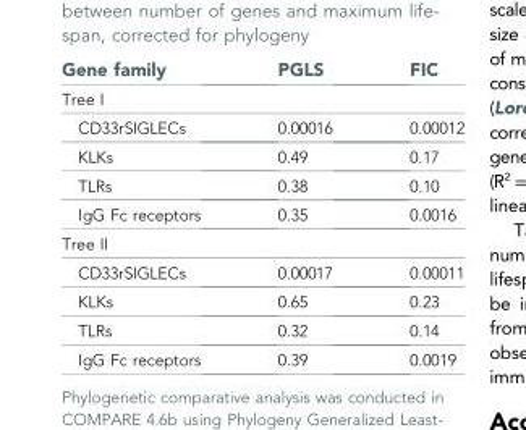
<table><thead><tr><td>Gene family</td><td>PGLS</td><td>FIC</td></tr></thead><tbody><tr><td colspan="3">Tree I</td></tr><tr><td>CD33rSIGLECs</td><td>0.00016</td><td>0.00012</td></tr><tr><td>KLKs</td><td>0.49</td><td>0.17</td></tr><tr><td>TLRs</td><td>0.38</td><td>0.10</td></tr><tr><td>IgG Fc receptors</td><td>0.35</td><td>0.0016</td></tr><tr><td colspan="3">Tree II</td></tr><tr><td>CD33rSIGLECs</td><td>0.00017</td><td>0.00011</td></tr><tr><td>KLKs</td><td>0.65</td><td>0.23</td></tr><tr><td>TLRs</td><td>0.32</td><td>0.14</td></tr><tr><td>IgG Fc receptors</td><td>0.39</td><td>0.0019</td></tr></tbody></table>